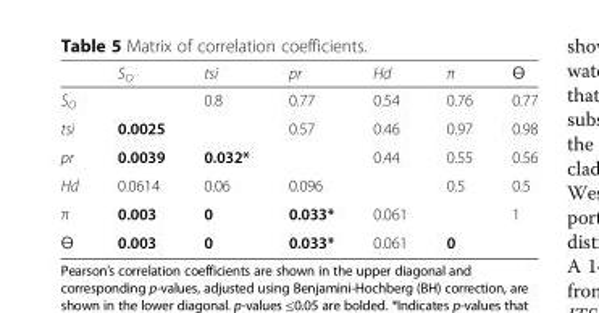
<table><thead><tr><td></td><td>S<sub>O</sub></td><td>tsi</td><td>pr</td><td>Hd</td><td>π</td><td>Ɵ</td></tr></thead><tbody><tr><td>S<sub>O</sub></td><td></td><td>0.8</td><td>0.77</td><td>0.54</td><td>0.76</td><td>0.77</td></tr><tr><td>tsi</td><td>0.0025</td><td></td><td>0.57</td><td>0.46</td><td>0.97</td><td>0.98</td></tr><tr><td>pr</td><td>0.0039</td><td>0.032*</td><td></td><td>0.44</td><td>0.55</td><td>0.56</td></tr><tr><td>Hd</td><td>0.0614</td><td>0.06</td><td>0.096</td><td></td><td>0.5</td><td>0.5</td></tr><tr><td>π</td><td>0.003</td><td>0</td><td>0.033*</td><td>0.061</td><td></td><td>1</td></tr><tr><td>Ɵ</td><td>0.003</td><td>0</td><td>0.033*</td><td>0.061</td><td>0</td><td></td></tr></tbody></table>